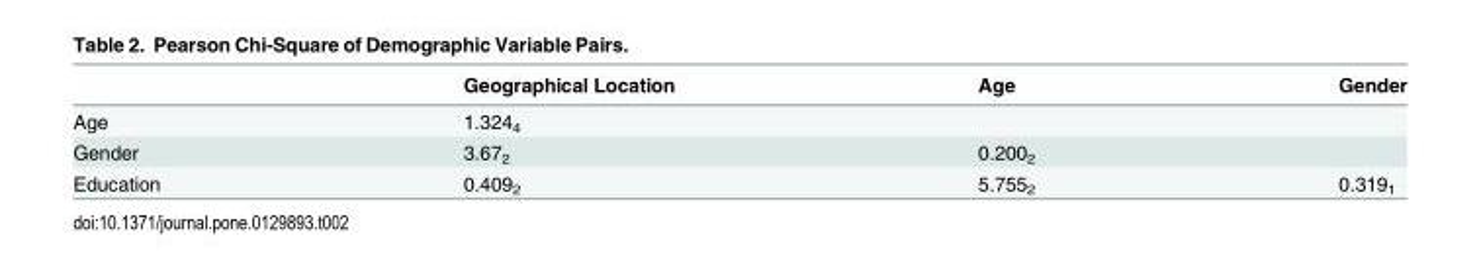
<table><thead><tr><td></td><td>Geographical Location</td><td>Age</td><td>Gender</td></tr></thead><tbody><tr><td>Age</td><td>1.324<sub>4</sub></td><td></td><td></td></tr><tr><td>Gender</td><td>3.67<sub>2</sub></td><td>0.200<sub>2</sub></td><td></td></tr><tr><td>Education</td><td>0.409<sub>2</sub></td><td>5.755<sub>2</sub></td><td>0.319<sub>1</sub></td></tr></tbody></table>